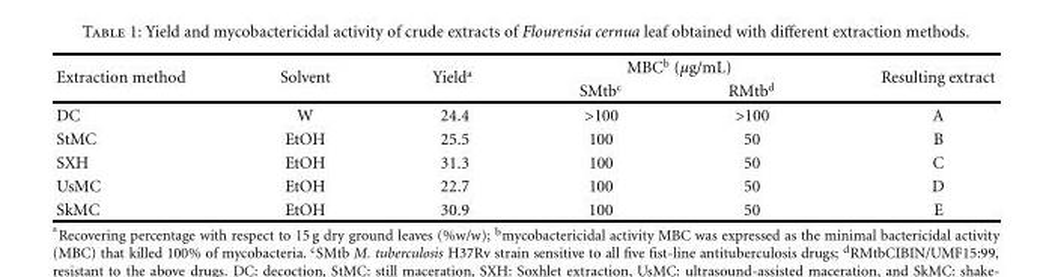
<table><thead><tr><td rowspan="2">Extraction method</td><td rowspan="2">Solvent</td><td rowspan="2">Yield<sup>a</sup></td><td colspan="2">MBC<sup>b</sup> (µg/mL)</td><td rowspan="2">Resulting extract</td></tr><tr><td>SMtb<sup>c</sup></td><td>RMtb<sup>d</sup></td></tr></thead><tbody><tr><td>DC</td><td>W</td><td>24.4</td><td>&gt;100</td><td>&gt;100</td><td>A</td></tr><tr><td>StMC</td><td>EtOH</td><td>25.5</td><td>100</td><td>50</td><td>B</td></tr><tr><td>SXH</td><td>EtOH</td><td>31.3</td><td>100</td><td>50</td><td>C</td></tr><tr><td>UsMC</td><td>EtOH</td><td>22.7</td><td>100</td><td>50</td><td>D</td></tr><tr><td>SkMC</td><td>EtOH</td><td>30.9</td><td>100</td><td>50</td><td>E</td></tr></tbody></table>